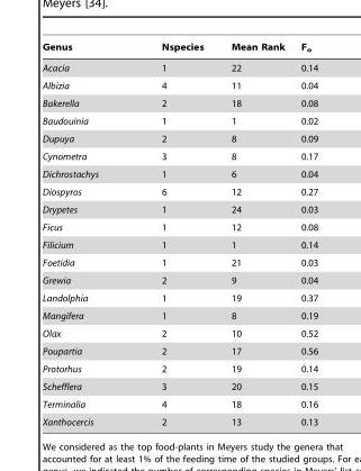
<table><thead><tr><td>Genus</td><td>Nspecies</td><td>Mean Rank</td><td>F<sub>o</sub></td></tr></thead><tbody><tr><td>Acacia</td><td>1</td><td>22</td><td>0.14</td></tr><tr><td>Albizia</td><td>4</td><td>11</td><td>0.04</td></tr><tr><td>Bakerella</td><td>2</td><td>18</td><td>0.08</td></tr><tr><td>Baudouinia</td><td>1</td><td>1</td><td>0.02</td></tr><tr><td>Dupuya</td><td>2</td><td>8</td><td>0.09</td></tr><tr><td>Cynometra</td><td>3</td><td>8</td><td>0.17</td></tr><tr><td>Dichrostachys</td><td>1</td><td>6</td><td>0.04</td></tr><tr><td>Diospyros</td><td>6</td><td>12</td><td>0.27</td></tr><tr><td>Drypetes</td><td>1</td><td>24</td><td>0.03</td></tr><tr><td>Ficus</td><td>1</td><td>12</td><td>0.08</td></tr><tr><td>Filicium</td><td>1</td><td>1</td><td>0.14</td></tr><tr><td>Foetidia</td><td>1</td><td>21</td><td>0.03</td></tr><tr><td>Grewia</td><td>2</td><td>9</td><td>0.04</td></tr><tr><td>Landolphia</td><td>1</td><td>19</td><td>0.37</td></tr><tr><td>Mangifera</td><td>1</td><td>8</td><td>0.19</td></tr><tr><td>Olax</td><td>2</td><td>10</td><td>0.52</td></tr><tr><td>Poupartia</td><td>2</td><td>17</td><td>0.56</td></tr><tr><td>Protorhus</td><td>2</td><td>19</td><td>0.14</td></tr><tr><td>Schefflera</td><td>3</td><td>20</td><td>0.15</td></tr><tr><td>Terminalia</td><td>4</td><td>18</td><td>0.16</td></tr><tr><td>Xanthocercis</td><td>2</td><td>13</td><td>0.13</td></tr></tbody></table>